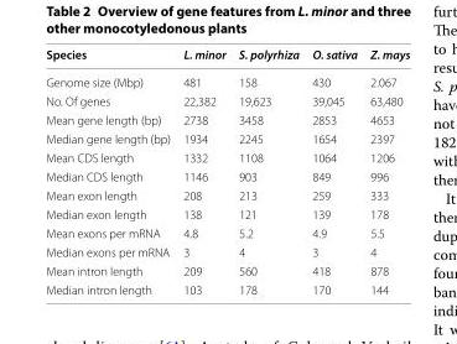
<table><thead><tr><td>Species</td><td>L. minor</td><td>S. polyrhiza</td><td>O. sativa</td><td>Z. mays</td></tr></thead><tbody><tr><td>Genome size (Mbp)</td><td>481</td><td>158</td><td>430</td><td>2.067</td></tr><tr><td>No. Of genes</td><td>22,382</td><td>19,623</td><td>39,045</td><td>63,480</td></tr><tr><td>Mean gene length (bp)</td><td>2738</td><td>3458</td><td>2853</td><td>4653</td></tr><tr><td>Median gene length (bp)</td><td>1934</td><td>2245</td><td>1654</td><td>2397</td></tr><tr><td>Mean CDS length</td><td>1332</td><td>1108</td><td>1064</td><td>1206</td></tr><tr><td>Median CDS length</td><td>1146</td><td>903</td><td>849</td><td>996</td></tr><tr><td>Mean exon length</td><td>208</td><td>213</td><td>259</td><td>333</td></tr><tr><td>Median exon length</td><td>138</td><td>121</td><td>139</td><td>178</td></tr><tr><td>Mean exons per mRNA</td><td>4.8</td><td>5.2</td><td>4.9</td><td>5.5</td></tr><tr><td>Median exons per mRNA</td><td>3</td><td>4</td><td>3</td><td>4</td></tr><tr><td>Mean intron length</td><td>209</td><td>560</td><td>418</td><td>878</td></tr><tr><td>Median intron length</td><td>103</td><td>178</td><td>170</td><td>144</td></tr></tbody></table>